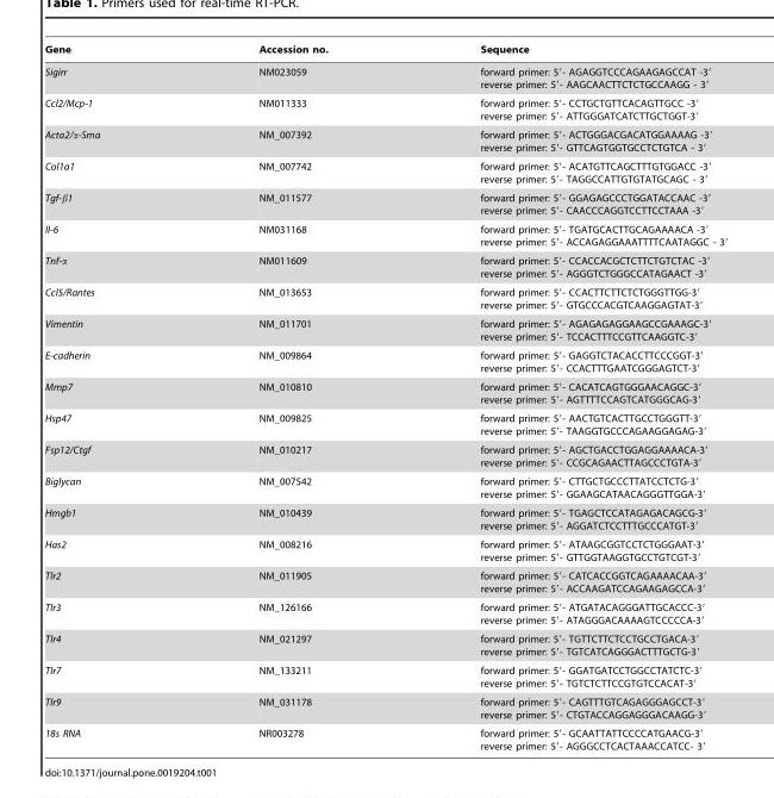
<table><thead><tr><td>Gene</td><td>Accession no.</td><td>Sequence</td></tr></thead><tbody><tr><td>Sigirr</td><td>NM023059</td><td>forward primer: 5′- AGAGGTCCCAGAAGAGCCAT -3′ reverse primer: 5′- AAGCAACTTCTCTGCCAAGG - 3′</td></tr><tr><td>Ccl2/Mcp-1</td><td>NM011333</td><td>forward primer: 5′- CCTGCTGTTCACAGTTGCC -3′ reverse primer: 5′- ATTGGGATCATCTTGCTGGT-3′</td></tr><tr><td>Acta2/α-Sma</td><td>NM_007392</td><td>forward primer: 5′- ACTGGGACGACATGGAAAAG -3′ reverse primer: 5′- GTTCAGTGGTGCCTCTGTCA - 3′</td></tr><tr><td>Col1a1</td><td>NM_007742</td><td>forward primer: 5′- ACATGTTCAGCTTTGTGGACC -3′ reverse primer: 5′- TAGGCCATTGTGTATGCAGC - 3′</td></tr><tr><td>Tgf-β1</td><td>NM_011577</td><td>forward primer: 5′- GGAGAGCCCTGGATACCAAC -3′ reverse primer: 5′- CAACCCAGGTCCTTCCTAAA -3′</td></tr><tr><td>Il-6</td><td>NM031168</td><td>forward primer: 5′- TGATGCACTTGCAGAAAACA -3′ reverse primer: 5′- ACCAGAGGAAATTTTCAATAGGC - 3′</td></tr><tr><td>Tnf-α</td><td>NM011609</td><td>forward primer: 5′- CCACCACGCTCTTCTGTCTAC -3′ reverse primer: 5′- AGGGTCTGGGCCATAGAACT -3′</td></tr><tr><td>Ccl5/Rantes</td><td>NM_013653</td><td>forward primer: 5′- CCACTTCTTCTCTGGGTTGG-3′ reverse primer: 5′- GTGCCCACGTCAAGGAGTAT-3′</td></tr><tr><td>Vimentin</td><td>NM_011701</td><td>forward primer: 5′- AGAGAGAGGAAGCCGAAAGC-3′ reverse primer: 5′- TCCACTTTCCGTTCAAGGTC-3′</td></tr><tr><td>E-cadherin</td><td>NM_009864</td><td>forward primer: 5′- GAGGTCTACACCTTCCCGGT-3′ reverse primer: 5′- CCACTTTGAATCGGGAGTCT-3′</td></tr><tr><td>Mmp7</td><td>NM_010810</td><td>forward primer: 5′- CACATCAGTGGGAACAGGC-3′ reverse primer: 5′- AGTTTTCCAGTCATGGGCAG-3′</td></tr><tr><td>Hsp47</td><td>NM_009825</td><td>forward primer: 5′- AACTGTCACTTGCCTGGGTT-3′ reverse primer: 5′- TAAGGTGCCCAGAAGGAGAG-3′</td></tr><tr><td>Fsp12/Ctgf</td><td>NM_010217</td><td>forward primer: 5′- AGCTGACCTGGAGGAAAACA-3′ reverse primer: 5′- CCGCAGAACTTAGCCCTGTA-3′</td></tr><tr><td>Biglycan</td><td>NM_007542</td><td>forward primer: 5′- CTTGCTGCCCTTATCCTCTG-3′ reverse primer: 5′- GGAAGCATAACAGGGTTGGA-3′</td></tr><tr><td>Hmgb1</td><td>NM_010439</td><td>forward primer: 5′- TGAGCTCCATAGAGACAGCG-3′ reverse primer: 5′- AGGATCTCCTTTGCCCATGT-3′</td></tr><tr><td>Has2</td><td>NM_008216</td><td>forward primer: 5′- ATAAGCGGTCCTCTGGGAAT-3′ reverse primer: 5′- GTTGGTAAGGTGCCTGTCGT-3′</td></tr><tr><td>Tlr2</td><td>NM_011905</td><td>forward primer: 5′- CATCACCGGTCAGAAAACAA-3′ reverse primer: 5′- ACCAAGATCCAGAAGAGCCA-3′</td></tr><tr><td>Tlr3</td><td>NM_126166</td><td>forward primer: 5′- ATGATACAGGGATTGCACCC-3′ reverse primer: 5′- ATAGGGACAAAAGTCCCCCA-3′</td></tr><tr><td>Tlr4</td><td>NM_021297</td><td>forward primer: 5′- TGTTCTTCTCCTGCCTGACA-3′ reverse primer: 5′- TGTCATCAGGGACTTTGCTG-3′</td></tr><tr><td>Tlr7</td><td>NM_133211</td><td>forward primer: 5′- GGATGATCCTGGCCTATCTC-3′ reverse primer: 5′- TGTCTCTTCCGTGTCCACAT-3′</td></tr><tr><td>Tlr9</td><td>NM_031178</td><td>forward primer: 5′- CAGTTTGTCAGAGGGAGCCT-3′ reverse primer: 5′- CTGTACCAGGAGGGACAAGG-3′</td></tr><tr><td>18s RNA</td><td>NR003278</td><td>forward primer: 5′- GCAATTATTCCCCATGAACG-3′ reverse primer: 5′- AGGGCCTCACTAAACCATCC- 3′</td></tr></tbody></table>